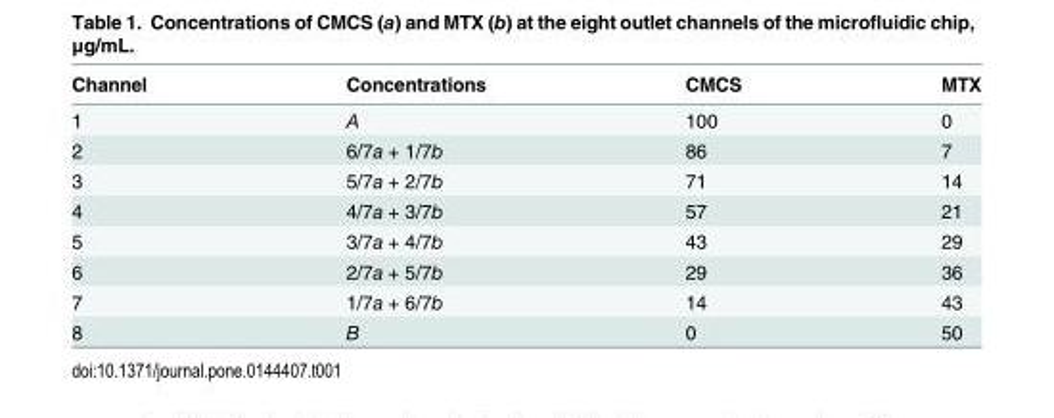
<table><thead><tr><td>Channel</td><td>Concentrations</td><td>CMCS</td><td>MTX</td></tr></thead><tbody><tr><td>1</td><td>A</td><td>100</td><td>0</td></tr><tr><td>2</td><td>6/7a + 1/7b</td><td>86</td><td>7</td></tr><tr><td>3</td><td>5/7a + 2/7b</td><td>71</td><td>14</td></tr><tr><td>4</td><td>4/7a + 3/7b</td><td>57</td><td>21</td></tr><tr><td>5</td><td>3/7a + 4/7b</td><td>43</td><td>29</td></tr><tr><td>6</td><td>2/7a + 5/7b</td><td>29</td><td>36</td></tr><tr><td>7</td><td>1/7a + 6/7b</td><td>14</td><td>43</td></tr><tr><td>8</td><td>B</td><td>0</td><td>50</td></tr></tbody></table>